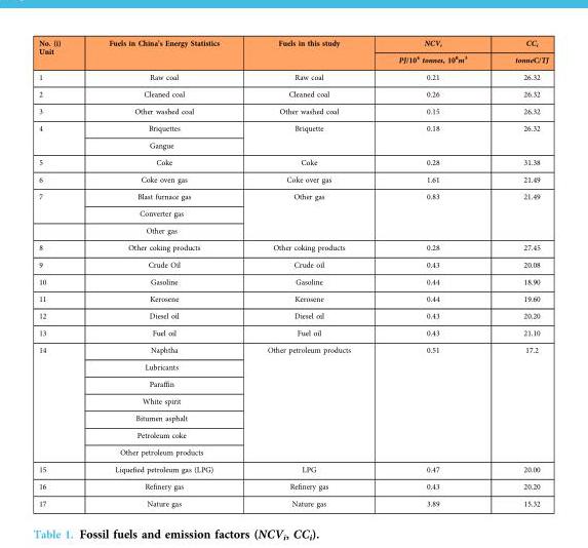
<table><thead><tr><td rowspan="2">No. (i) Unit</td><td rowspan="2">Fuels in China’s Energy Statistics</td><td rowspan="2">Fuels in this study</td><td rowspan="2">NCV<sub>i</sub> PJ/10<sup>4</sup> tonnes, 10<sup>8</sup>m<sup>3</sup></td><td rowspan="2">CC<sub>i</sub> tonneC/TJ</td></tr><tr></tr></thead><tbody><tr><td>1</td><td>Raw coal</td><td>Raw coal</td><td>0.21</td><td>26.32</td></tr><tr><td>2</td><td>Cleaned coal</td><td>Cleaned coal</td><td>0.26</td><td>26.32</td></tr><tr><td>3</td><td>Other washed coal</td><td>Other washed coal</td><td>0.15</td><td>26.32</td></tr><tr><td rowspan="2">4</td><td>Briquettes</td><td rowspan="2">Briquette</td><td rowspan="2">0.18</td><td rowspan="2">26.32</td></tr><tr><td>Gangue</td></tr><tr><td>5</td><td>Coke</td><td>Coke</td><td>0.28</td><td>31.38</td></tr><tr><td>6</td><td>Coke oven gas</td><td>Coke over gas</td><td>1.61</td><td>21.49</td></tr><tr><td rowspan="3">7</td><td>Blast furnace gas</td><td rowspan="3">Other gas</td><td rowspan="3">0.83</td><td rowspan="3">21.49</td></tr><tr><td>Converter gas</td></tr><tr><td>Other gas</td></tr><tr><td>8</td><td>Other coking products</td><td>Other coking products</td><td>0.28</td><td>27.45</td></tr><tr><td>9</td><td>Crude Oil</td><td>Crude oil</td><td>0.43</td><td>20.08</td></tr><tr><td>10</td><td>Gasoline</td><td>Gasoline</td><td>0.44</td><td>18.90</td></tr><tr><td>11</td><td>Kerosene</td><td>Kerosene</td><td>0.44</td><td>19.60</td></tr><tr><td>12</td><td>Diesel oil</td><td>Diesel oil</td><td>0.43</td><td>20.20</td></tr><tr><td>13</td><td>Fuel oil</td><td>Fuel oil</td><td>0.43</td><td>21.10</td></tr><tr><td rowspan="7">14</td><td>Naphtha</td><td rowspan="7">Other petroleum products</td><td rowspan="7">0.51</td><td rowspan="7">17.2</td></tr><tr><td>Lubricants</td></tr><tr><td>Paraffin</td></tr><tr><td>White spirit</td></tr><tr><td>Bitumen asphalt</td></tr><tr><td>Petroleum coke</td></tr><tr><td>Other petroleum products</td></tr><tr><td>15</td><td>Liquefied petroleum gas (LPG)</td><td>LPG</td><td>0.47</td><td>20.00</td></tr><tr><td>16</td><td>Refinery gas</td><td>Refinery gas</td><td>0.43</td><td>20.20</td></tr><tr><td>17</td><td>Nature gas</td><td>Nature gas</td><td>3.89</td><td>15.32</td></tr></tbody></table>